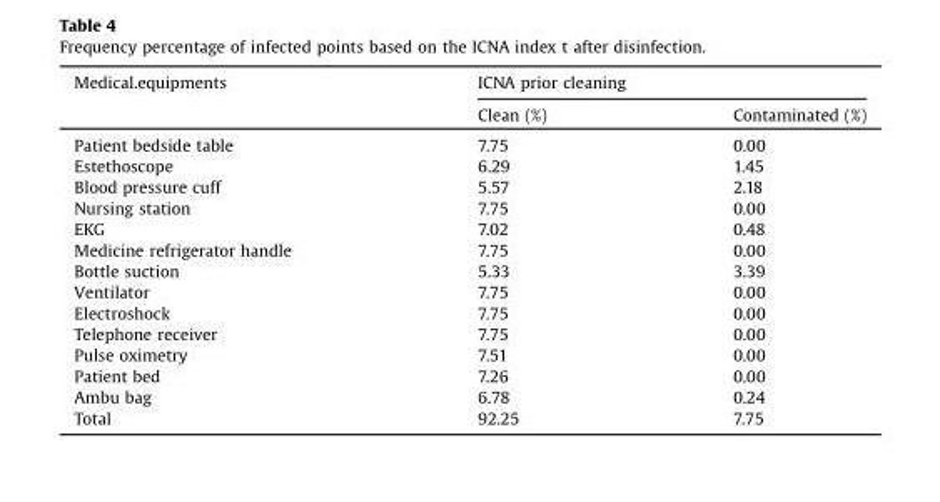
<table><thead><tr><td rowspan="2">Medical.equipments</td><td colspan="2">ICNA prior cleaning</td></tr><tr><td>Clean (%)</td><td>Contaminated (%)</td></tr></thead><tbody><tr><td>Patient bedside table</td><td>7.75</td><td>0.00</td></tr><tr><td>Estethoscope</td><td>6.29</td><td>1.45</td></tr><tr><td>Blood pressure cuff</td><td>5.57</td><td>2.18</td></tr><tr><td>Nursing station</td><td>7.75</td><td>0.00</td></tr><tr><td>EKG</td><td>7.02</td><td>0.48</td></tr><tr><td>Medicine refrigerator handle</td><td>7.75</td><td>0.00</td></tr><tr><td>Bottle suction</td><td>5.33</td><td>3.39</td></tr><tr><td>Ventilator</td><td>7.75</td><td>0.00</td></tr><tr><td>Electroshock</td><td>7.75</td><td>0.00</td></tr><tr><td>Telephone receiver</td><td>7.75</td><td>0.00</td></tr><tr><td>Pulse oximetry</td><td>7.51</td><td>0.00</td></tr><tr><td>Patient bed</td><td>7.26</td><td>0.00</td></tr><tr><td>Ambu bag</td><td>6.78</td><td>0.24</td></tr><tr><td>Total</td><td>92.25</td><td>7.75</td></tr></tbody></table>